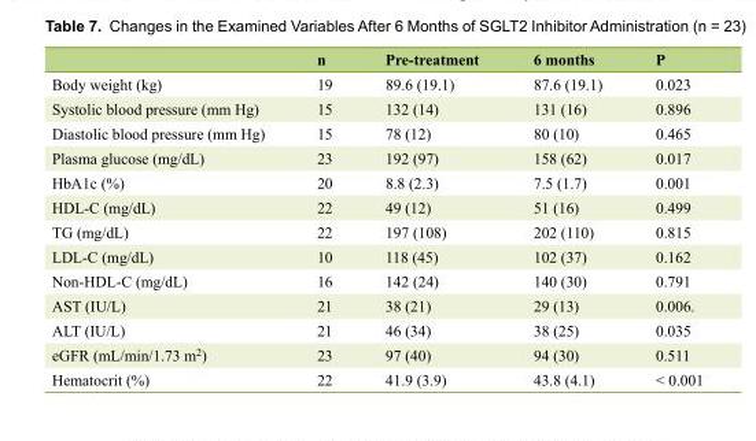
<table><thead><tr><td></td><td>n</td><td>Pre-treatment</td><td>6 months</td><td>P</td></tr></thead><tbody><tr><td>Body weight (kg)</td><td>19</td><td>89.6 (19.1)</td><td>87.6 (19.1)</td><td>0.023</td></tr><tr><td>Systolic blood pressure (mm Hg)</td><td>15</td><td>132 (14)</td><td>131 (16)</td><td>0.896</td></tr><tr><td>Diastolic blood pressure (mm Hg)</td><td>15</td><td>78 (12)</td><td>80 (10)</td><td>0.465</td></tr><tr><td>Plasma glucose (mg/dL)</td><td>23</td><td>192 (97)</td><td>158 (62)</td><td>0.017</td></tr><tr><td>HbA1c (%)</td><td>20</td><td>8.8 (2.3)</td><td>7.5 (1.7)</td><td>0.001</td></tr><tr><td>HDL-C (mg/dL)</td><td>22</td><td>49 (12)</td><td>51 (16)</td><td>0.499</td></tr><tr><td>TG (mg/dL)</td><td>22</td><td>197 (108)</td><td>202 (110)</td><td>0.815</td></tr><tr><td>LDL-C (mg/dL)</td><td>10</td><td>118 (45)</td><td>102 (37)</td><td>0.162</td></tr><tr><td>Non-HDL-C (mg/dL)</td><td>16</td><td>142 (24)</td><td>140 (30)</td><td>0.791</td></tr><tr><td>AST (IU/L)</td><td>21</td><td>38 (21)</td><td>29 (13)</td><td>0.006.</td></tr><tr><td>ALT (IU/L)</td><td>21</td><td>46 (34)</td><td>38 (25)</td><td>0.035</td></tr><tr><td>eGFR (mL/min/1.73 m<sup>2</sup>)</td><td>23</td><td>97 (40)</td><td>94 (30)</td><td>0.511</td></tr><tr><td>Hematocrit (%)</td><td>22</td><td>41.9 (3.9)</td><td>43.8 (4.1)</td><td>&lt; 0.001</td></tr></tbody></table>